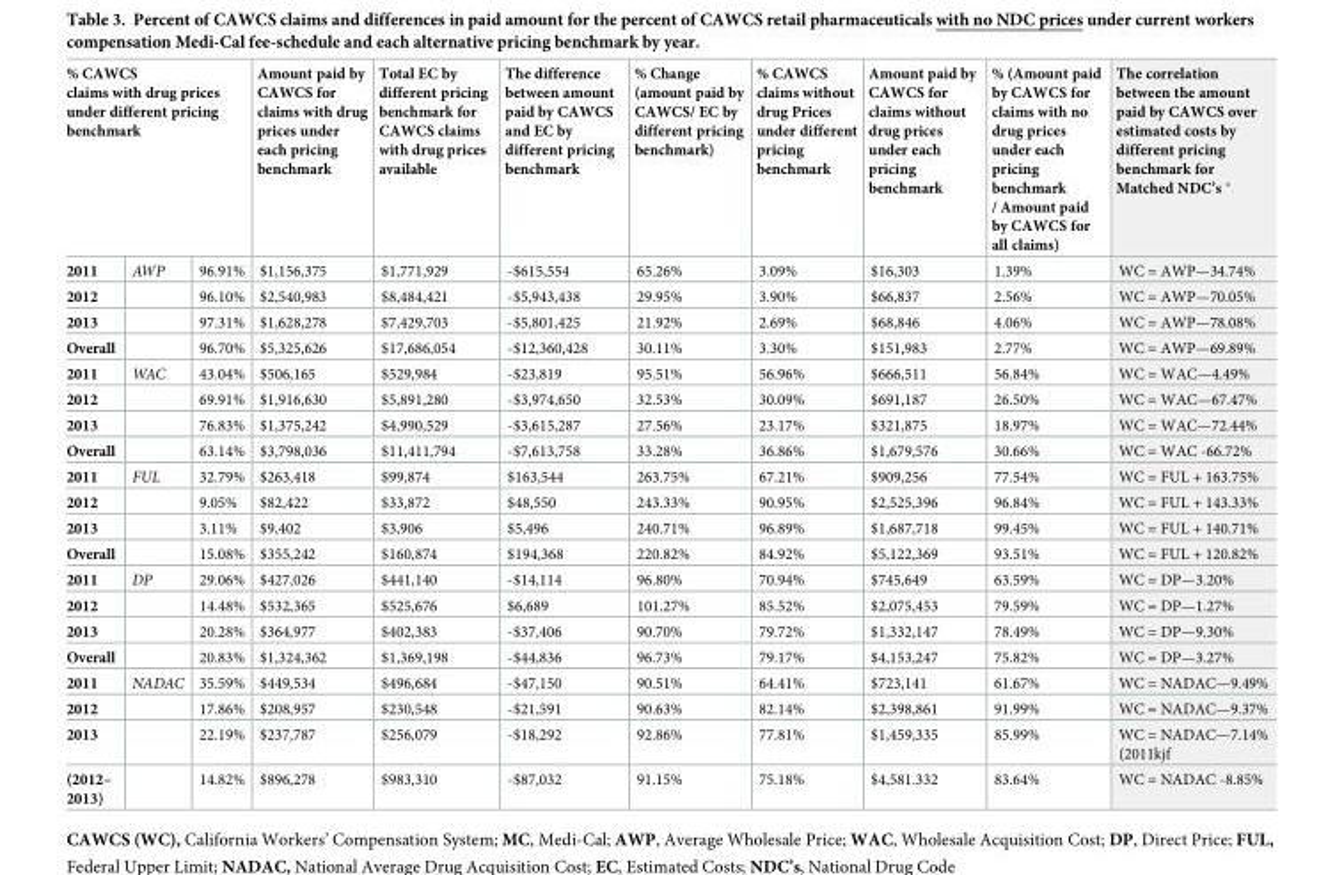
<table><thead><tr><td colspan="3">% CAWCS claims with drug prices under different pricing benchmark</td><td rowspan="2">Amount paid by CAWCS for claims with drug prices under each pricing benchmark $1,156,375</td><td rowspan="2">Total EC by different pricing benchmark for CAWCS claims with drug prices available $1,771,929</td><td rowspan="2">The difference between amount paid by CAWCS and EC by different pricing benchmark -$615,554</td><td rowspan="2">% Change (amount paid by CAWCS/ EC by different pricing benchmark) 65.26%</td><td rowspan="2">% CAWCS claims without drug Prices under different pricing benchmark 3.09%</td><td rowspan="2">Amount paid by CAWCS for claims without drug prices under each pricing benchmark $16,303</td><td rowspan="2">% (Amount paid by CAWCS for claims with no drug prices under each pricing benchmark / Amount paid by CAWCS for all claims) 1.39%</td><td rowspan="2">The correlation between the amount paid by CAWCS over estimated costs by different pricing benchmark for Matched NDC’s * WC = AWP—34.74%</td></tr><tr><td>2011</td><td>AWP</td><td>96.91%</td></tr></thead><tbody><tr><td>2012</td><td></td><td>96.10%</td><td>$2,540,983</td><td>$8,484,421</td><td>-$5,943,438</td><td>29.95%</td><td>3.90%</td><td>$66,837</td><td>2.56%</td><td>WC = AWP—70.05%</td></tr><tr><td>2013</td><td></td><td>97.31%</td><td>$1,628,278</td><td>$7,429,703</td><td>-$5,801,425</td><td>21.92%</td><td>2.69%</td><td>$68,846</td><td>4.06%</td><td>WC = AWP—78.08%</td></tr><tr><td>Overall</td><td></td><td>96.70%</td><td>$5,325,626</td><td>$17,686,054</td><td>-$12,360,428</td><td>30.11%</td><td>3.30%</td><td>$151,983</td><td>2.77%</td><td>WC = AWP—69.89%</td></tr><tr><td>2011</td><td>WAC</td><td>43.04%</td><td>$506,165</td><td>$529,984</td><td>-$23,819</td><td>95.51%</td><td>56.96%</td><td>$666,511</td><td>56.84%</td><td>WC = WAC—4.49%</td></tr><tr><td>2012</td><td></td><td>69.91%</td><td>$1,916,630</td><td>$5,891,280</td><td>-$3,974,650</td><td>32.53%</td><td>30.09%</td><td>$691,187</td><td>26.50%</td><td>WC = WAC—67.47%</td></tr><tr><td>2013</td><td></td><td>76.83%</td><td>$1,375,242</td><td>$4,990,529</td><td>-$3,615,287</td><td>27.56%</td><td>23.17%</td><td>$321,875</td><td>18.97%</td><td>WC = WAC—72.44%</td></tr><tr><td>Overall</td><td></td><td>63.14%</td><td>$3,798,036</td><td>$11,411,794</td><td>-$7,613,758</td><td>33.28%</td><td>36.86%</td><td>$1,679,576</td><td>30.66%</td><td>WC = WAC -66.72%</td></tr><tr><td>2011</td><td>FUL</td><td>32.79%</td><td>$263,418</td><td>$99,874</td><td>$163,544</td><td>263.75%</td><td>67.21%</td><td>$909,256</td><td>77.54%</td><td>WC = FUL + 163.75%</td></tr><tr><td>2012</td><td></td><td>9.05%</td><td>$82,422</td><td>$33,872</td><td>$48,550</td><td>243.33%</td><td>90.95%</td><td>$2,525,396</td><td>96.84%</td><td>WC = FUL + 143.33%</td></tr><tr><td>2013</td><td></td><td>3.11%</td><td>$9,402</td><td>$3,906</td><td>$5,496</td><td>240.71%</td><td>96.89%</td><td>$1,687,718</td><td>99.45%</td><td>WC = FUL + 140.71%</td></tr><tr><td>Overall</td><td></td><td>15.08%</td><td>$355,242</td><td>$160,874</td><td>$194,368</td><td>220.82%</td><td>84.92%</td><td>$5,122,369</td><td>93.51%</td><td>WC = FUL + 120.82%</td></tr><tr><td>2011</td><td>DP</td><td>29.06%</td><td>$427,026</td><td>$441,140</td><td>-$14,114</td><td>96.80%</td><td>70.94%</td><td>$745,649</td><td>63.59%</td><td>WC = DP—3.20%</td></tr><tr><td>2012</td><td></td><td>14.48%</td><td>$532,365</td><td>$525,676</td><td>$6,689</td><td>101.27%</td><td>85.52%</td><td>$2,075,453</td><td>79.59%</td><td>WC = DP—1.27%</td></tr><tr><td>2013</td><td></td><td>20.28%</td><td>$364,977</td><td>$402,383</td><td>-$37,406</td><td>90.70%</td><td>79.72%</td><td>$1,332,147</td><td>78.49%</td><td>WC = DP—9.30%</td></tr><tr><td>Overall</td><td></td><td>20.83%</td><td>$1,324,362</td><td>$1,369,198</td><td>-$44,836</td><td>96.73%</td><td>79.17%</td><td>$4,153,247</td><td>75.82%</td><td>WC = DP—3.27%</td></tr><tr><td>2011</td><td>NADAC</td><td>35.59%</td><td>$449,534</td><td>$496,684</td><td>-$47,150</td><td>90.51%</td><td>64.41%</td><td>$723,141</td><td>61.67%</td><td>WC = NADAC—9.49%</td></tr><tr><td>2012</td><td></td><td>17.86%</td><td>$208,957</td><td>$230,548</td><td>-$21,591</td><td>90.63%</td><td>82.14%</td><td>$2,398,861</td><td>91.99%</td><td>WC = NADAC—9.37%</td></tr><tr><td>2013</td><td></td><td>22.19%</td><td>$237,787</td><td>$256,079</td><td>-$18,292</td><td>92.86%</td><td>77.81%</td><td>$1,459,335</td><td>85.99%</td><td>WC = NADAC—7.14% (2011kjf</td></tr><tr><td>(2012– 2013)</td><td></td><td>14.82%</td><td>$896,278</td><td>$983,310</td><td>-$87,032</td><td>91.15%</td><td>75.18%</td><td>$4,581.332</td><td>83.64%</td><td>WC = NADAC -8.85%</td></tr></tbody></table>